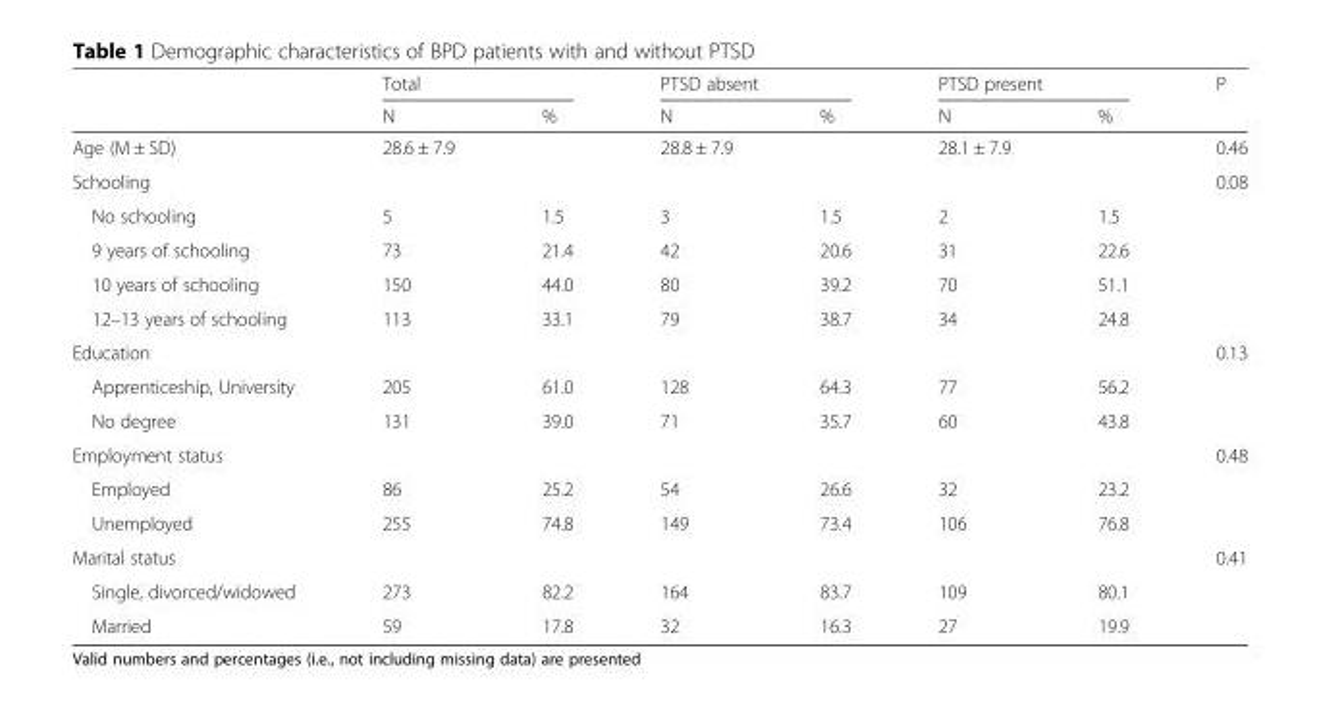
<table><thead><tr><td rowspan="2"></td><td colspan="2">Total</td><td colspan="2">PTSD absent</td><td colspan="2">PTSD present</td><td rowspan="2">P</td></tr><tr><td>N</td><td>%</td><td>N</td><td>%</td><td>N</td><td>%</td></tr></thead><tbody><tr><td>Age (M ± SD)</td><td>28.6 ± 7.9</td><td></td><td>28.8 ± 7.9</td><td></td><td>28.1 ± 7.9</td><td></td><td>0.46</td></tr><tr><td colspan="7">Schooling</td><td rowspan="5">0.08</td></tr><tr><td>No schooling</td><td>5</td><td>1.5</td><td>3</td><td>1.5</td><td>2</td><td>1.5</td></tr><tr><td>9 years of schooling</td><td>73</td><td>21.4</td><td>42</td><td>20.6</td><td>31</td><td>22.6</td></tr><tr><td>10 years of schooling</td><td>150</td><td>44.0</td><td>80</td><td>39.2</td><td>70</td><td>51.1</td></tr><tr><td>12–13 years of schooling</td><td>113</td><td>33.1</td><td>79</td><td>38.7</td><td>34</td><td>24.8</td></tr><tr><td colspan="7">Education</td><td rowspan="3">0.13</td></tr><tr><td>Apprenticeship, University</td><td>205</td><td>61.0</td><td>128</td><td>64.3</td><td>77</td><td>56.2</td></tr><tr><td>No degree</td><td>131</td><td>39.0</td><td>71</td><td>35.7</td><td>60</td><td>43.8</td></tr><tr><td colspan="7">Employment status</td><td rowspan="3">0.48</td></tr><tr><td>Employed</td><td>86</td><td>25.2</td><td>54</td><td>26.6</td><td>32</td><td>23.2</td></tr><tr><td>Unemployed</td><td>255</td><td>74.8</td><td>149</td><td>73.4</td><td>106</td><td>76.8</td></tr><tr><td colspan="7">Marital status</td><td rowspan="3">0.41</td></tr><tr><td>Single, divorced/widowed</td><td>273</td><td>82.2</td><td>164</td><td>83.7</td><td>109</td><td>80.1</td></tr><tr><td>Married</td><td>59</td><td>17.8</td><td>32</td><td>16.3</td><td>27</td><td>19.9</td></tr></tbody></table>